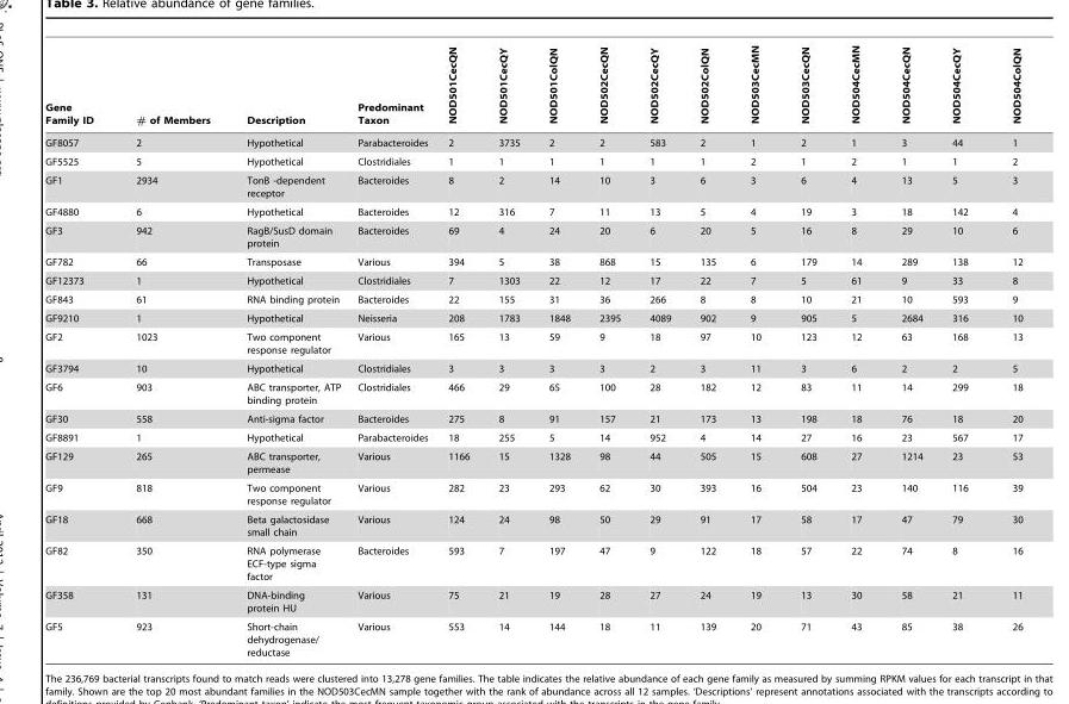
<table><thead><tr><td>Gene Family ID</td><td># of Members</td><td>Description</td><td>Predominant Taxon</td><td>NOD501CecQN</td><td>NOD501CecQY</td><td>NOD501ColQN</td><td>NOD502CecQN</td><td>NOD502CecQY</td><td>NOD502ColQN</td><td>NOD503CecMN</td><td>NOD503CecQN</td><td>NOD504CecMN</td><td>NOD504CecQN</td><td>NOD504CecQY</td><td>NOD504ColQN</td></tr></thead><tbody><tr><td>GF8057</td><td>2</td><td>Hypothetical</td><td>Parabacteroides</td><td>2</td><td>3735</td><td>2</td><td>2</td><td>583</td><td>2</td><td>1</td><td>2</td><td>1</td><td>3</td><td>44</td><td>1</td></tr><tr><td>GF5525</td><td>5</td><td>Hypothetical</td><td>Clostridiales</td><td>1</td><td>1</td><td>1</td><td>1</td><td>1</td><td>1</td><td>2</td><td>1</td><td>2</td><td>1</td><td>1</td><td>2</td></tr><tr><td>GF1</td><td>2934</td><td>TonB -dependent receptor</td><td>Bacteroides</td><td>8</td><td>2</td><td>14</td><td>10</td><td>3</td><td>6</td><td>3</td><td>6</td><td>4</td><td>13</td><td>5</td><td>3</td></tr><tr><td>GF4880</td><td>6</td><td>Hypothetical</td><td>Bacteroides</td><td>12</td><td>316</td><td>7</td><td>11</td><td>13</td><td>5</td><td>4</td><td>19</td><td>3</td><td>18</td><td>142</td><td>4</td></tr><tr><td>GF3</td><td>942</td><td>RagB/SusD domain protein</td><td>Bacteroides</td><td>69</td><td>4</td><td>24</td><td>20</td><td>6</td><td>20</td><td>5</td><td>16</td><td>8</td><td>29</td><td>10</td><td>6</td></tr><tr><td>GF782</td><td>66</td><td>Transposase</td><td>Various</td><td>394</td><td>5</td><td>38</td><td>868</td><td>15</td><td>135</td><td>6</td><td>179</td><td>14</td><td>289</td><td>138</td><td>12</td></tr><tr><td>GF12373</td><td>1</td><td>Hypothetical</td><td>Clostridiales</td><td>7</td><td>1303</td><td>22</td><td>12</td><td>17</td><td>22</td><td>7</td><td>5</td><td>61</td><td>9</td><td>33</td><td>8</td></tr><tr><td>GF843</td><td>61</td><td>RNA binding protein</td><td>Bacteroides</td><td>22</td><td>155</td><td>31</td><td>36</td><td>266</td><td>8</td><td>8</td><td>10</td><td>21</td><td>10</td><td>593</td><td>9</td></tr><tr><td>GF9210</td><td>1</td><td>Hypothetical</td><td>Neisseria</td><td>208</td><td>1783</td><td>1848</td><td>2395</td><td>4089</td><td>902</td><td>9</td><td>905</td><td>5</td><td>2684</td><td>316</td><td>10</td></tr><tr><td>GF2</td><td>1023</td><td>Two component response regulator</td><td>Various</td><td>165</td><td>13</td><td>59</td><td>9</td><td>18</td><td>97</td><td>10</td><td>123</td><td>12</td><td>63</td><td>168</td><td>13</td></tr><tr><td>GF3794</td><td>10</td><td>Hypothetical</td><td>Clostridiales</td><td>3</td><td>3</td><td>3</td><td>3</td><td>2</td><td>3</td><td>11</td><td>3</td><td>6</td><td>2</td><td>2</td><td>5</td></tr><tr><td>GF6</td><td>903</td><td>ABC transporter, ATP binding protein</td><td>Clostridiales</td><td>466</td><td>29</td><td>65</td><td>100</td><td>28</td><td>182</td><td>12</td><td>83</td><td>11</td><td>14</td><td>299</td><td>18</td></tr><tr><td>GF30</td><td>558</td><td>Anti-sigma factor</td><td>Bacteroides</td><td>275</td><td>8</td><td>91</td><td>157</td><td>21</td><td>173</td><td>13</td><td>198</td><td>18</td><td>76</td><td>18</td><td>20</td></tr><tr><td>GF8891</td><td>1</td><td>Hypothetical</td><td>Parabacteroides</td><td>18</td><td>255</td><td>5</td><td>14</td><td>952</td><td>4</td><td>14</td><td>27</td><td>16</td><td>23</td><td>567</td><td>17</td></tr><tr><td>GF129</td><td>265</td><td>ABC transporter, permease</td><td>Various</td><td>1166</td><td>15</td><td>1328</td><td>98</td><td>44</td><td>505</td><td>15</td><td>608</td><td>27</td><td>1214</td><td>23</td><td>53</td></tr><tr><td>GF9</td><td>818</td><td>Two component response regulator</td><td>Various</td><td>282</td><td>23</td><td>293</td><td>62</td><td>30</td><td>393</td><td>16</td><td>504</td><td>23</td><td>140</td><td>116</td><td>39</td></tr><tr><td>GF18</td><td>668</td><td>Beta galactosidase small chain</td><td>Various</td><td>124</td><td>24</td><td>98</td><td>50</td><td>29</td><td>91</td><td>17</td><td>58</td><td>17</td><td>47</td><td>79</td><td>30</td></tr><tr><td>GF82</td><td>350</td><td>RNA polymerase ECF-type sigma factor</td><td>Bacteroides</td><td>593</td><td>7</td><td>197</td><td>47</td><td>9</td><td>122</td><td>18</td><td>57</td><td>22</td><td>74</td><td>8</td><td>16</td></tr><tr><td>GF358</td><td>131</td><td>DNA-binding protein HU</td><td>Various</td><td>75</td><td>21</td><td>19</td><td>28</td><td>27</td><td>24</td><td>19</td><td>13</td><td>30</td><td>58</td><td>21</td><td>11</td></tr><tr><td>GF5</td><td>923</td><td>Short-chain dehydrogenase/ reductase</td><td>Various</td><td>553</td><td>14</td><td>144</td><td>18</td><td>11</td><td>139</td><td>20</td><td>71</td><td>43</td><td>85</td><td>38</td><td>26</td></tr></tbody></table>